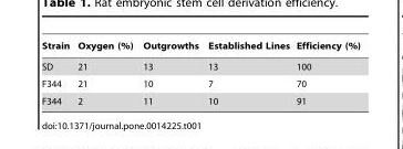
<table><thead><tr><td>Strain</td><td>Oxygen (%)</td><td>Outgrowths</td><td>Established Lines</td><td>Efficiency (%)</td></tr></thead><tbody><tr><td>SD</td><td>21</td><td>13</td><td>13</td><td>100</td></tr><tr><td>F344</td><td>21</td><td>10</td><td>7</td><td>70</td></tr><tr><td>F344</td><td>2</td><td>11</td><td>10</td><td>91</td></tr></tbody></table>